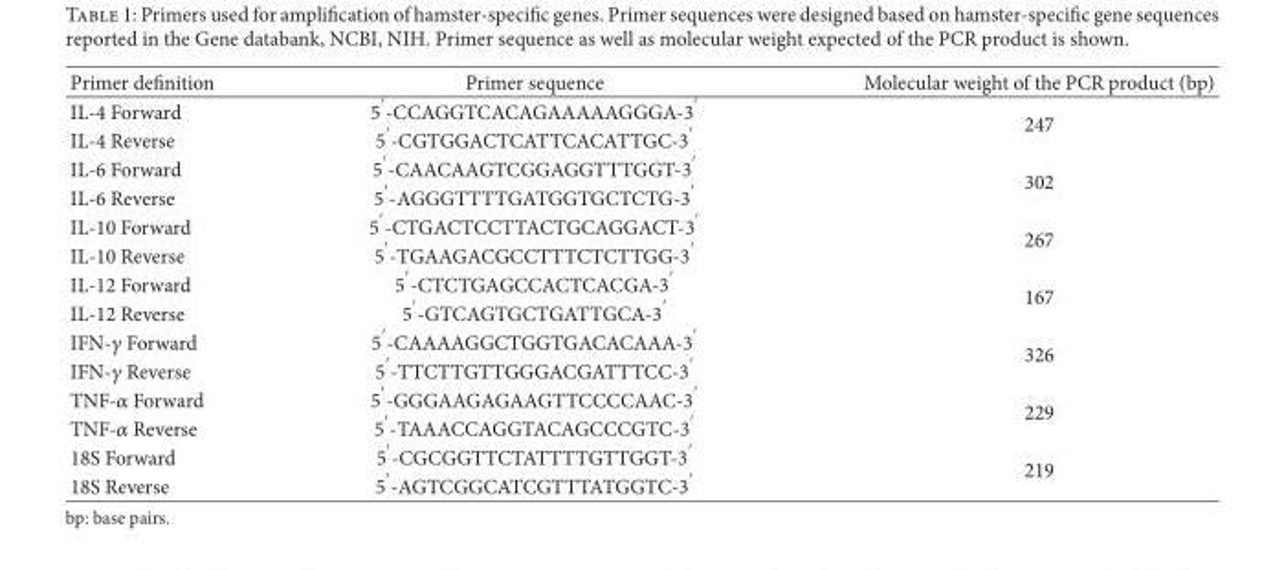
<table><thead><tr><td>Primer de�nition</td><td>Primer sequence</td><td>Molecular weight of the PCR product (bp)</td></tr></thead><tbody><tr><td>IL-4 Forward</td><td>5′-CCAGGTCACAGAAAAAGGGA-3′</td><td rowspan="2">247</td></tr><tr><td>IL-4 Reverse</td><td>5′-CGTGGACTCATTCACATTGC-3′</td></tr><tr><td>IL-6 Forward</td><td>5′-CAACAAGTCGGAGGTTTGGT-3′</td><td rowspan="2">302</td></tr><tr><td>IL-6 Reverse</td><td>5′-AGGGTTTTGATGGTGCTCTG-3′</td></tr><tr><td>IL-10 Forward</td><td>5′-CTGACTCCTTACTGCAGGACT-3′</td><td rowspan="2">267</td></tr><tr><td>IL-10 Reverse</td><td>5′-TGAAGACGCCTTTCTCTTGG-3′</td></tr><tr><td>IL-12 Forward</td><td>5′-CTCTGAGCCACTCACGA-3′</td><td rowspan="2">167</td></tr><tr><td>IL-12 Reverse</td><td>5′-GTCAGTGCTGATTGCA-3′</td></tr><tr><td>IFN-𝛾𝛾 Forward</td><td>5′-CAAAAGGCTGGTGACACAAA-3′</td><td rowspan="2">326</td></tr><tr><td>IFN-𝛾𝛾 Reverse</td><td>5′-TTCTTGTTGGGACGATTTCC-3′</td></tr><tr><td>TNF-𝛼𝛼 Forward</td><td>5′-GGGAAGAGAAGTTCCCCAAC-3′</td><td rowspan="2">229</td></tr><tr><td>TNF-𝛼𝛼 Reverse</td><td>5′-TAAACCAGGTACAGCCCGTC-3′</td></tr><tr><td>18S Forward</td><td>5′-CGCGGTTCTATTTTGTTGGT-3′</td><td rowspan="2">219</td></tr><tr><td>18S Reverse</td><td>5′-AGTCGGCATCGTTTATGGTC-3′</td></tr></tbody></table>